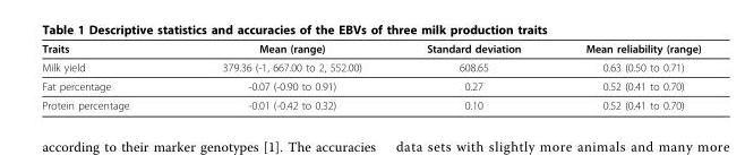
<table><thead><tr><td>Traits</td><td>Mean (range)</td><td>Standard deviation</td><td>Mean reliability (range)</td></tr></thead><tbody><tr><td>Milk yield</td><td>379.36 (-1, 667.00 to 2, 552.00)</td><td>608.65</td><td>0.63 (0.50 to 0.71)</td></tr><tr><td>Fat percentage</td><td>-0.07 (-0.90 to 0.91)</td><td>0.27</td><td>0.52 (0.41 to 0.70)</td></tr><tr><td>Protein percentage</td><td>-0.01 (-0.42 to 0.32)</td><td>0.10</td><td>0.52 (0.41 to 0.70)</td></tr></tbody></table>